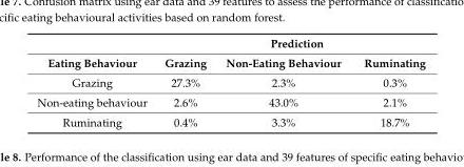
<table><thead><tr><td rowspan="2">Eating Behaviour</td><td colspan="3">Prediction</td></tr><tr><td>Grazing</td><td>Non-Eating Behaviour</td><td>Ruminating</td></tr></thead><tbody><tr><td>Grazing</td><td>27.3%</td><td>2.3%</td><td>0.3%</td></tr><tr><td>Non-eating behaviour</td><td>2.6%</td><td>43.0%</td><td>2.1%</td></tr><tr><td>Ruminating</td><td>0.4%</td><td>3.3%</td><td>18.7%</td></tr></tbody></table>